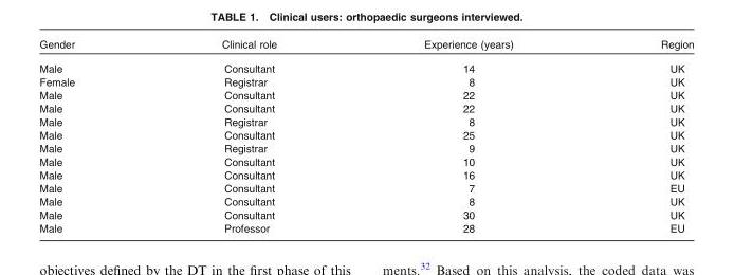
<table><thead><tr><td>Gender</td><td>Clinical role</td><td>Experience (years)</td><td>Region</td></tr></thead><tbody><tr><td>Male</td><td>Consultant</td><td>14</td><td>UK</td></tr><tr><td>Female</td><td>Registrar</td><td>8</td><td>UK</td></tr><tr><td>Male</td><td>Consultant</td><td>22</td><td>UK</td></tr><tr><td>Male</td><td>Consultant</td><td>22</td><td>UK</td></tr><tr><td>Male</td><td>Registrar</td><td>8</td><td>UK</td></tr><tr><td>Male</td><td>Consultant</td><td>25</td><td>UK</td></tr><tr><td>Male</td><td>Registrar</td><td>9</td><td>UK</td></tr><tr><td>Male</td><td>Consultant</td><td>10</td><td>UK</td></tr><tr><td>Male</td><td>Consultant</td><td>16</td><td>UK</td></tr><tr><td>Male</td><td>Consultant</td><td>7</td><td>EU</td></tr><tr><td>Male</td><td>Consultant</td><td>8</td><td>UK</td></tr><tr><td>Male</td><td>Consultant</td><td>30</td><td>UK</td></tr><tr><td>Male</td><td>Professor</td><td>28</td><td>EU</td></tr></tbody></table>